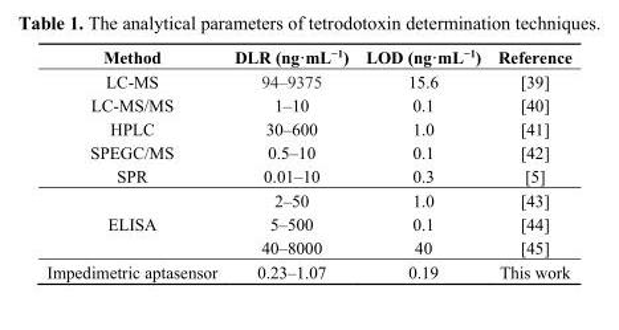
<table><thead><tr><td>Method</td><td>DLR (ng·mL<sup>−1</sup>)</td><td>LOD (ng·mL<sup>−1</sup>)</td><td>Reference</td></tr></thead><tbody><tr><td>LC-MS</td><td>94–9375</td><td>15.6</td><td>[39]</td></tr><tr><td>LC-MS/MS</td><td>1–10</td><td>0.1</td><td>[40]</td></tr><tr><td>HPLC</td><td>30–600</td><td>1.0</td><td>[41]</td></tr><tr><td>SPEGC/MS</td><td>0.5–10</td><td>0.1</td><td>[42]</td></tr><tr><td>SPR</td><td>0.01–10</td><td>0.3</td><td>[5]</td></tr><tr><td rowspan="3">ELISA</td><td>2–50</td><td>1.0</td><td>[43]</td></tr><tr><td>5–500</td><td>0.1</td><td>[44]</td></tr><tr><td>40–8000</td><td>40</td><td>[45]</td></tr><tr><td>Impedimetric aptasensor</td><td>0.23–1.07</td><td>0.19</td><td>This work</td></tr></tbody></table>